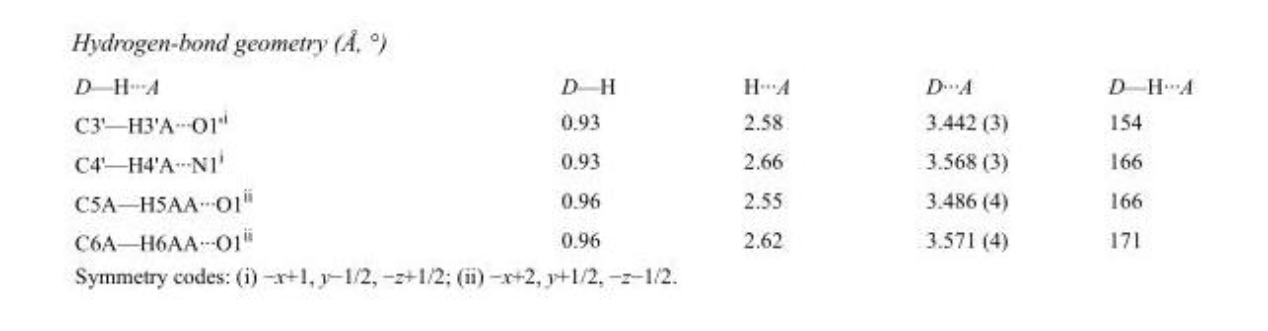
<table><tbody><tr><td>D—H···A</td><td>D—H</td><td>H···A</td><td>D···A</td><td>D—H···A</td></tr><tr><td>C3&#x27;—H3&#x27;A···O1&#x27;<sup>i</sup></td><td>0.93</td><td>2.58</td><td>3.442 (3)</td><td>154</td></tr><tr><td>C4&#x27;—H4&#x27;A···N1<sup>i</sup></td><td>0.93</td><td>2.66</td><td>3.568 (3)</td><td>166</td></tr><tr><td>C5A—H5AA···O1<sup>ii</sup></td><td>0.96</td><td>2.55</td><td>3.486 (4)</td><td>166</td></tr><tr><td>C6A—H6AA···O1<sup>ii</sup></td><td>0.96</td><td>2.62</td><td>3.571 (4)</td><td>171</td></tr></tbody></table>